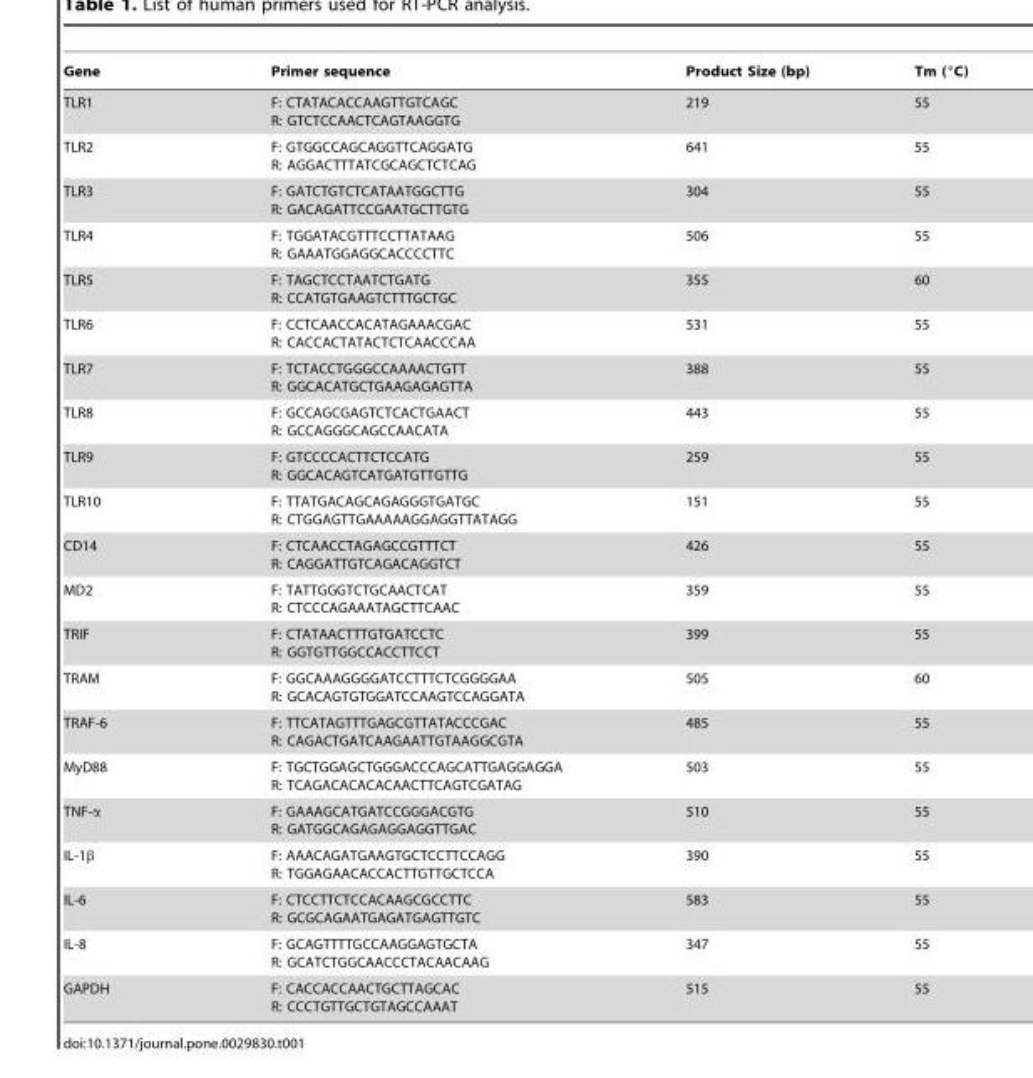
<table><thead><tr><td>Gene</td><td>Primer sequence</td><td>Product Size (bp)</td><td>Tm (°C)</td></tr></thead><tbody><tr><td>TLR1</td><td>F: CTATACACCAAGTTGTCAGC R: GTCTCCAACTCAGTAAGGTG</td><td>219</td><td>55</td></tr><tr><td>TLR2</td><td>F: GTGGCCAGCAGGTTCAGGATG R: AGGACTTTATCGCAGCTCTCAG</td><td>641</td><td>55</td></tr><tr><td>TLR3</td><td>F: GATCTGTCTCATAATGGCTTG R: GACAGATTCCGAATGCTTGTG</td><td>304</td><td>55</td></tr><tr><td>TLR4</td><td>F: TGGATACGTTTCCTTATAAG R: GAAATGGAGGCACCCCTTC</td><td>506</td><td>55</td></tr><tr><td>TLR5</td><td>F: TAGCTCCTAATCTGATG R: CCATGTGAAGTCTTTGCTGC</td><td>355</td><td>60</td></tr><tr><td>TLR6</td><td>F: CCTCAACCACATAGAAACGAC R: CACCACTATACTCTCAACCCAA</td><td>531</td><td>55</td></tr><tr><td>TLR7</td><td>F: TCTACCTGGGCCAAAACTGTT R: GGCACATGCTGAAGAGAGTTA</td><td>388</td><td>55</td></tr><tr><td>TLR8</td><td>F: GCCAGCGAGTCTCACTGAACT R: GCCAGGGCAGCCAACATA</td><td>443</td><td>55</td></tr><tr><td>TLR9</td><td>F: GTCCCCACTTCTCCATG R: GGCACAGTCATGATGTTGTTG</td><td>259</td><td>55</td></tr><tr><td>TLR10</td><td>F: TTATGACAGCAGAGGGTGATGC R: CTGGAGTTGAAAAAGGAGGTTATAGG</td><td>151</td><td>55</td></tr><tr><td>CD14</td><td>F: CTCAACCTAGAGCCGTTTCT R: CAGGATTGTCAGACAGGTCT</td><td>426</td><td>55</td></tr><tr><td>MD2</td><td>F: TATTGGGTCTGCAACTCAT R: CTCCCAGAAATAGCTTCAAC</td><td>359</td><td>55</td></tr><tr><td>TRIF</td><td>F: CTATAACTTTGTGATCCTC R: GGTGTTGGCCACCTTCCT</td><td>399</td><td>55</td></tr><tr><td>TRAM</td><td>F: GGCAAAGGGGATCCTTTCTCGGGGAA R: GCACAGTGTGGATCCAAGTCCAGGATA</td><td>505</td><td>60</td></tr><tr><td>TRAF-6</td><td>F: TTCATAGTTTGAGCGTTATACCCGAC R: CAGACTGATCAAGAATTGTAAGGCGTA</td><td>485</td><td>55</td></tr><tr><td>MyD88</td><td>F: TGCTGGAGCTGGGACCCAGCATTGAGGAGGA R: TCAGACACACACAACTTCAGTCGATAG</td><td>503</td><td>55</td></tr><tr><td>TNF-α</td><td>F: GAAAGCATGATCCGGGACGTG R: GATGGCAGAGAGGAGGTTGAC</td><td>510</td><td>55</td></tr><tr><td>IL-1β</td><td>F: AAACAGATGAAGTGCTCCTTCCAGG R: TGGAGAACACCACTTGTTGCTCCA</td><td>390</td><td>55</td></tr><tr><td>IL-6</td><td>F: CTCCTTCTCCACAAGCGCCTTC R: GCGCAGAATGAGATGAGTTGTC</td><td>583</td><td>55</td></tr><tr><td>IL-8</td><td>F: GCAGTTTTGCCAAGGAGTGCTA R: GCATCTGGCAACCCTACAACAAG</td><td>347</td><td>55</td></tr><tr><td>GAPDH</td><td>F: CACCACCAACTGCTTAGCAC R: CCCTGTTGCTGTAGCCAAAT</td><td>515</td><td>55</td></tr></tbody></table>